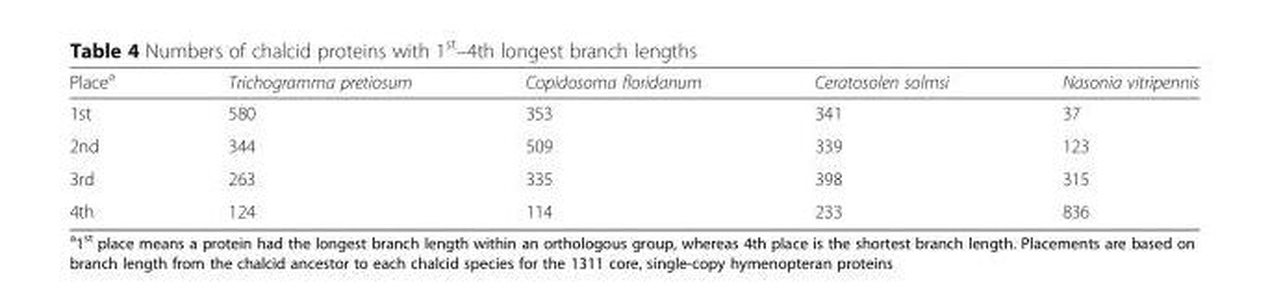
<table><thead><tr><td>Place<sup>a</sup></td><td>Trichogramma pretiosum</td><td>Copidosoma floridanum</td><td>Ceratosolen solmsi</td><td>Nasonia vitripennis</td></tr></thead><tbody><tr><td>1st</td><td>580</td><td>353</td><td>341</td><td>37</td></tr><tr><td>2nd</td><td>344</td><td>509</td><td>339</td><td>123</td></tr><tr><td>3rd</td><td>263</td><td>335</td><td>398</td><td>315</td></tr><tr><td>4th</td><td>124</td><td>114</td><td>233</td><td>836</td></tr></tbody></table>